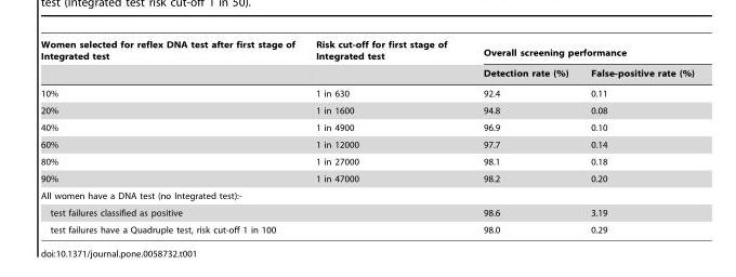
<table><thead><tr><td rowspan="2">Women selected for reflex DNA test after first stage of Integrated test</td><td rowspan="2">Risk cut-off for first stage of Integrated test</td><td colspan="2">Overall screening performance</td></tr><tr><td>Detection rate (%)</td><td>False-positive rate (%)</td></tr></thead><tbody><tr><td>10%</td><td>1 in 630</td><td>92.4</td><td>0.11</td></tr><tr><td>20%</td><td>1 in 1600</td><td>94.8</td><td>0.08</td></tr><tr><td>40%</td><td>1 in 4900</td><td>96.9</td><td>0.10</td></tr><tr><td>60%</td><td>1 in 12000</td><td>97.7</td><td>0.14</td></tr><tr><td>80%</td><td>1 in 27000</td><td>98.1</td><td>0.18</td></tr><tr><td>90%</td><td>1 in 47000</td><td>98.2</td><td>0.20</td></tr><tr><td colspan="4">All women have a DNA test (no Integrated test):-</td></tr><tr><td colspan="2">test failures classified as positive</td><td>98.6</td><td>3.19</td></tr><tr><td colspan="2">test failures have a Quadruple test, risk cut-off 1 in 100</td><td>98.0</td><td>0.29</td></tr></tbody></table>